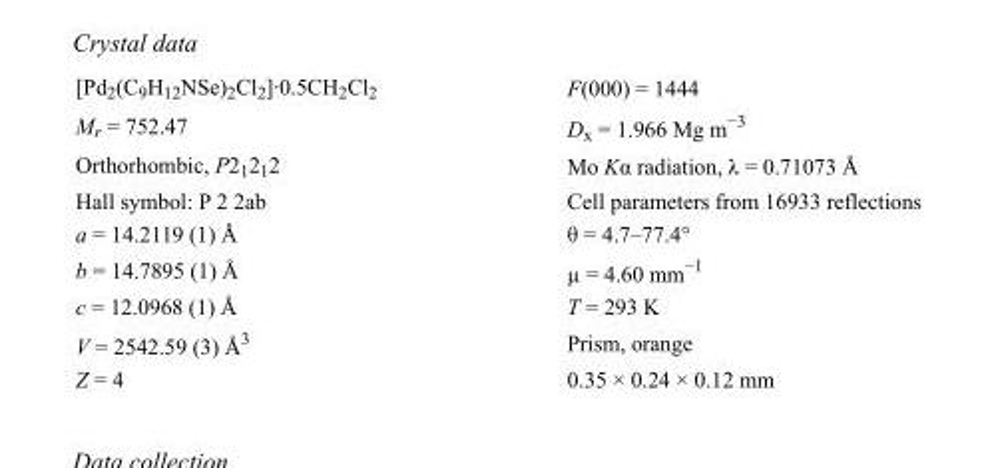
<table><tbody><tr><td>[Pd<sub>2</sub>(C<sub>9</sub>H<sub>12</sub>NSe)<sub>2</sub>Cl<sub>2</sub>]·0.5CH<sub>2</sub>Cl<sub>2</sub></td><td>F(000) = 1444</td></tr><tr><td>M<sub>r</sub> = 752.47</td><td>D<sub>x</sub> = 1.966 Mg m<sup>−3</sup></td></tr><tr><td>Orthorhombic, P2<sub>1</sub>2<sub>1</sub>2</td><td>Mo Kα radiation, λ = 0.71073 Å</td></tr><tr><td>Hall symbol: P 2 2ab</td><td>Cell parameters from 16933 reflections</td></tr><tr><td>a = 14.2119 (1) Å</td><td>θ = 4.7–77.4°</td></tr><tr><td>b = 14.7895 (1) Å</td><td>µ = 4.60 mm<sup>−1</sup></td></tr><tr><td>c = 12.0968 (1) Å</td><td>T = 293 K</td></tr><tr><td>V = 2542.59 (3) Å<sup>3</sup></td><td>Prism, orange</td></tr><tr><td>Z = 4</td><td>0.35 × 0.24 × 0.12 mm</td></tr></tbody></table>